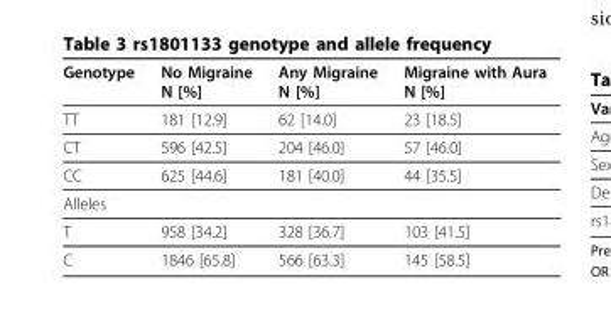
<table><thead><tr><td>Genotype</td><td>No Migraine N [%]</td><td>Any Migraine N [%]</td><td>Migraine with Aura N [%]</td></tr></thead><tbody><tr><td>TT</td><td>181 [12.9]</td><td>62 [14.0]</td><td>23 [18.5]</td></tr><tr><td>CT</td><td>596 [42.5]</td><td>204 [46.0]</td><td>57 [46.0]</td></tr><tr><td>CC</td><td>625 [44.6]</td><td>181 [40.0]</td><td>44 [35.5]</td></tr><tr><td colspan="4">Alleles</td></tr><tr><td>T</td><td>958 [34.2]</td><td>328 [36.7]</td><td>103 [41.5]</td></tr><tr><td>C</td><td>1846 [65.8]</td><td>566 [63.3]</td><td>145 [58.5]</td></tr></tbody></table>